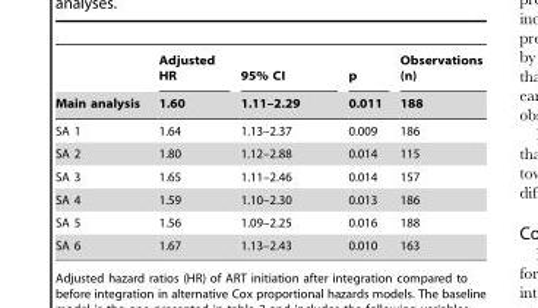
<table><thead><tr><td rowspan="2">Main analysis</td><td rowspan="2">Adjusted HR 1.60</td><td rowspan="2">95% CI 1.11–2.29</td><td rowspan="2">p 0.011</td><td rowspan="2">Observations (n) 188</td></tr><tr></tr></thead><tbody><tr><td>SA 1</td><td>1.64</td><td>1.13–2.37</td><td>0.009</td><td>186</td></tr><tr><td>SA 2</td><td>1.80</td><td>1.12–2.88</td><td>0.014</td><td>115</td></tr><tr><td>SA 3</td><td>1.65</td><td>1.11–2.46</td><td>0.014</td><td>157</td></tr><tr><td>SA 4</td><td>1.59</td><td>1.10–2.30</td><td>0.013</td><td>186</td></tr><tr><td>SA 5</td><td>1.56</td><td>1.09–2.25</td><td>0.016</td><td>188</td></tr><tr><td>SA 6</td><td>1.67</td><td>1.13–2.43</td><td>0.010</td><td>163</td></tr></tbody></table>